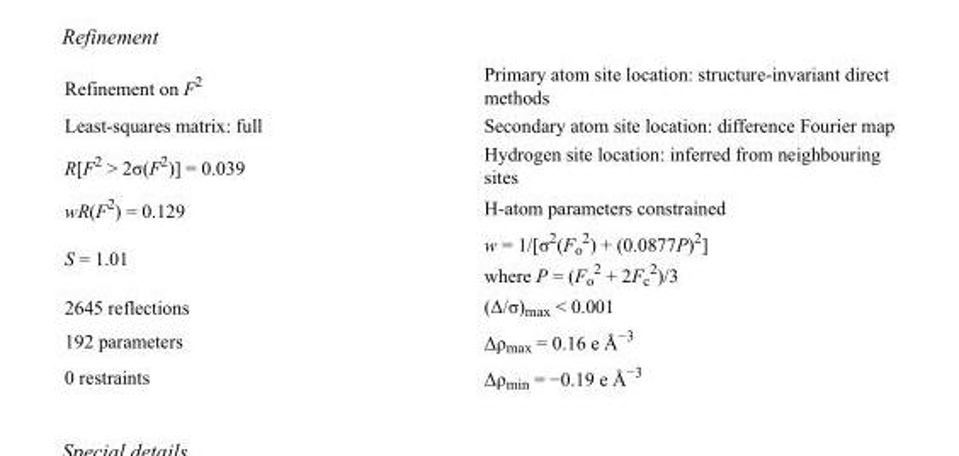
<table><tbody><tr><td>Refinement on F<sup>2</sup></td><td>Primary atom site location: structure-invariant direct methods</td></tr><tr><td>Least-squares matrix: full</td><td>Secondary atom site location: difference Fourier map</td></tr><tr><td>R[F<sup>2</sup> &gt; 2σ(F<sup>2</sup>)] = 0.039</td><td>Hydrogen site location: inferred from neighbouring sites</td></tr><tr><td>wR(F<sup>2</sup>) = 0.129</td><td>H-atom parameters constrained</td></tr><tr><td>S = 1.01</td><td>w = 1/[σ<sup>2</sup>(F<sub>o</sub> <sup>2</sup>) + (0.0877P)<sup>2</sup>] where P = (F<sub>o</sub> <sup>2</sup> + 2F<sub>c</sub> <sup>2</sup>)/3</td></tr><tr><td>2645 reflections</td><td>(Δ/σ)<sub>max</sub> &lt; 0.001</td></tr><tr><td>192 parameters</td><td>Δρ<sub>max</sub> = 0.16 e Å<sup>−3</sup></td></tr><tr><td>0 restraints</td><td>Δρ<sub>min</sub> = −0.19 e Å<sup>−3</sup></td></tr></tbody></table>